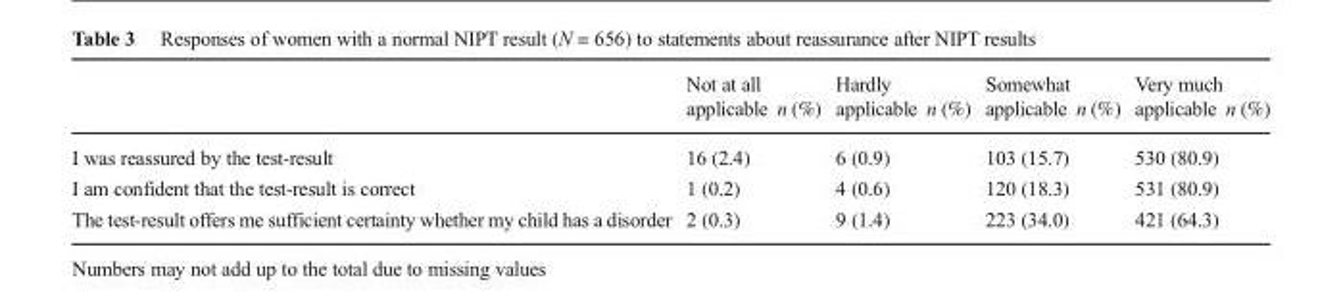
<table><thead><tr><td></td><td>Not at all applicable n (%)</td><td>Hardly applicable n (%)</td><td>Somewhat applicable n (%)</td><td>Very much applicable n (%)</td></tr></thead><tbody><tr><td>I was reassured by the test-result</td><td>16 (2.4)</td><td>6 (0.9)</td><td>103 (15.7)</td><td>530 (80.9)</td></tr><tr><td>I am confident that the test-result is correct</td><td>1 (0.2)</td><td>4 (0.6)</td><td>120 (18.3)</td><td>531 (80.9)</td></tr><tr><td>The test-result offers me sufficient certainty whether my child has a disorder</td><td>2 (0.3)</td><td>9 (1.4)</td><td>223 (34.0)</td><td>421 (64.3)</td></tr></tbody></table>